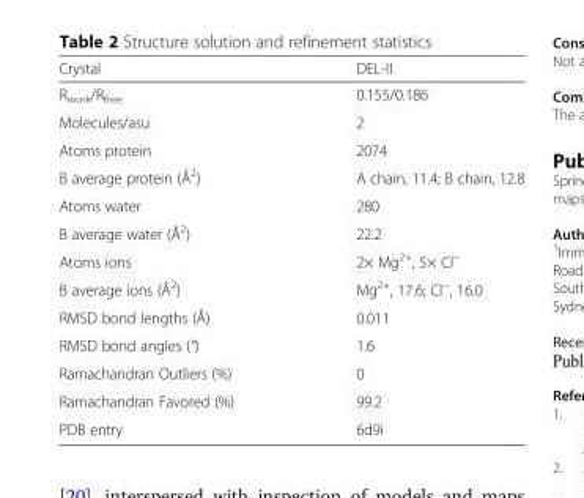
<table><thead><tr><td>Crystal</td><td>DEL-II</td></tr></thead><tbody><tr><td>R<sub>work</sub>/R<sub>free</sub></td><td>0.155/0.186</td></tr><tr><td>Molecules/asu</td><td>2</td></tr><tr><td>Atoms protein</td><td>2074</td></tr><tr><td>B average protein (Å<sup>2</sup>)</td><td>A chain, 11.4; B chain, 12.8</td></tr><tr><td>Atoms water</td><td>280</td></tr><tr><td>B average water (Å<sup>2</sup>)</td><td>22.2</td></tr><tr><td>Atoms ions</td><td>2× Mg<sup>2+</sup>, 5× Cl<sup>−</sup></td></tr><tr><td>B average ions (Å<sup>2</sup>)</td><td>Mg<sup>2+</sup>, 17.6; Cl<sup>−</sup>, 16.0</td></tr><tr><td>RMSD bond lengths (Å)</td><td>0.011</td></tr><tr><td>RMSD bond angles (°)</td><td>1.6</td></tr><tr><td>Ramachandran Outliers (%)</td><td>0</td></tr><tr><td>Ramachandran Favored (%)</td><td>99.2</td></tr><tr><td>PDB entry</td><td>6d9i</td></tr></tbody></table>